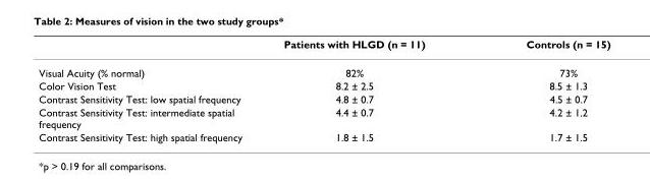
<table><thead><tr><td></td><td>Patients with HLGD (n = 11)</td><td>Controls (n = 15)</td></tr></thead><tbody><tr><td>Visual Acuity (% normal)</td><td>82%</td><td>73%</td></tr><tr><td>Color Vision Test</td><td>8.2 ± 2.5</td><td>8.5 ± 1.3</td></tr><tr><td>Contrast Sensitivity Test: low spatial frequency</td><td>4.8 ± 0.7</td><td>4.5 ± 0.7</td></tr><tr><td>Contrast Sensitivity Test: intermediate spatial frequency</td><td>4.4 ± 0.7</td><td>4.2 ± 1.2</td></tr><tr><td>Contrast Sensitivity Test: high spatial frequency</td><td>1.8 ± 1.5</td><td>1.7 ± 1.5</td></tr></tbody></table>